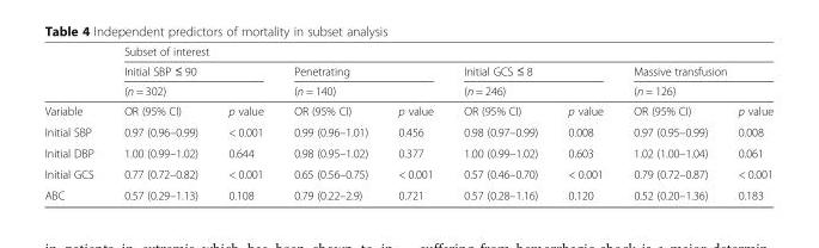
<table><thead><tr><td rowspan="4">Variable</td><td colspan="8">Subset of interest</td></tr><tr><td rowspan="2" colspan="2">Initial SBP ≤ 90 (n = 302)</td><td rowspan="2" colspan="2">Penetrating (n = 140)</td><td rowspan="2" colspan="2">Initial GCS ≤ 8 (n = 246)</td><td rowspan="2" colspan="2">Massive transfusion (n = 126)</td></tr><tr></tr><tr><td>OR (95% CI)</td><td>p value</td><td>OR (95% CI)</td><td>p value</td><td>OR (95% CI)</td><td>p value</td><td>OR (95% CI)</td><td>p value</td></tr></thead><tbody><tr><td>Initial SBP</td><td>0.97 (0.96–0.99)</td><td>&lt; 0.001</td><td>0.99 (0.96–1.01)</td><td>0.456</td><td>0.98 (0.97–0.99)</td><td>0.008</td><td>0.97 (0.95–0.99)</td><td>0.008</td></tr><tr><td>Initial DBP</td><td>1.00 (0.99–1.02)</td><td>0.644</td><td>0.98 (0.95–1.02)</td><td>0.377</td><td>1.00 (0.99–1.02)</td><td>0.603</td><td>1.02 (1.00–1.04)</td><td>0.061</td></tr><tr><td>Initial GCS</td><td>0.77 (0.72–0.82)</td><td>&lt; 0.001</td><td>0.65 (0.56–0.75)</td><td>&lt; 0.001</td><td>0.57 (0.46–0.70)</td><td>&lt; 0.001</td><td>0.79 (0.72–0.87)</td><td>&lt; 0.001</td></tr><tr><td>ABC</td><td>0.57 (0.29–1.13)</td><td>0.108</td><td>0.79 (0.22–2.9)</td><td>0.721</td><td>0.57 (0.28–1.16)</td><td>0.120</td><td>0.52 (0.20–1.36)</td><td>0.183</td></tr></tbody></table>